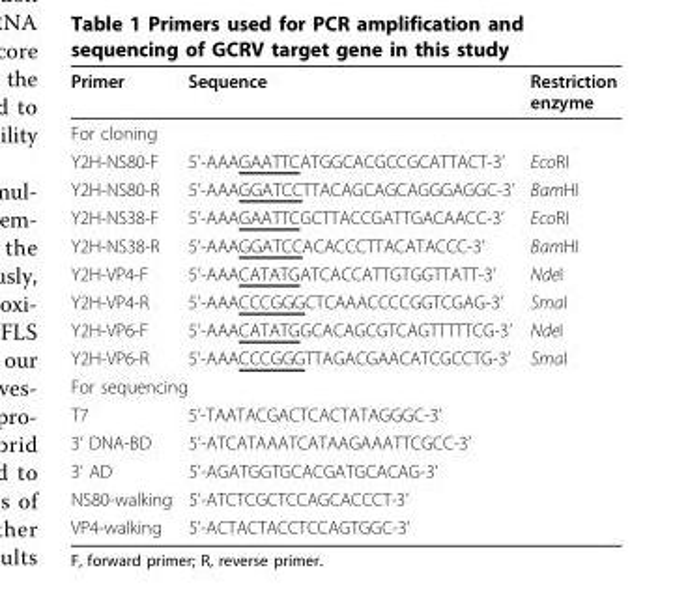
<table><thead><tr><td>Primer</td><td>Sequence</td><td>Restriction enzyme</td></tr></thead><tbody><tr><td colspan="3">For cloning</td></tr><tr><td>Y2H-NS80-F</td><td>5’-AAAGAATTCATGGCACGCCGCATTACT-3’</td><td>EcoRI</td></tr><tr><td>Y2H-NS80-R</td><td>5’-AAAGGATCCTTACAGCAGCAGGGAGGC-3’</td><td>BamHI</td></tr><tr><td>Y2H-NS38-F</td><td>5’-AAAGAATTCGCTTACCGATTGACAACC-3’</td><td>EcoRI</td></tr><tr><td>Y2H-NS38-R</td><td>5’-AAAGGATCCACACCCTTACATACCC-3’</td><td>BamHI</td></tr><tr><td>Y2H-VP4-F</td><td>5’-AAACATATGATCACCATTGTGGTTATT-3’</td><td>NdeI</td></tr><tr><td>Y2H-VP4-R</td><td>5’-AAACCCGGGCTCAAACCCCGGTCGAG-3’</td><td>SmaI</td></tr><tr><td>Y2H-VP6-F</td><td>5’-AAACATATGGCACAGCGTCAGTTTTTCG-3’</td><td>NdeI</td></tr><tr><td>Y2H-VP6-R</td><td>5’-AAACCCGGGTTAGACGAACATCGCCTG-3’</td><td>SmaI</td></tr><tr><td colspan="3">For sequencing</td></tr><tr><td>T7</td><td>5’-TAATACGACTCACTATAGGGC-3’</td><td></td></tr><tr><td>3’ DNA-BD</td><td>5’-ATCATAAATCATAAGAAATTCGCC-3’</td><td></td></tr><tr><td>3’ AD</td><td>5’-AGATGGTGCACGATGCACAG-3’</td><td></td></tr><tr><td>NS80-walking</td><td>5’-ATCTCGCTCCAGCACCCT-3’</td><td></td></tr><tr><td>VP4-walking</td><td>5’-ACTACTACCTCCAGTGGC-3’</td><td></td></tr></tbody></table>